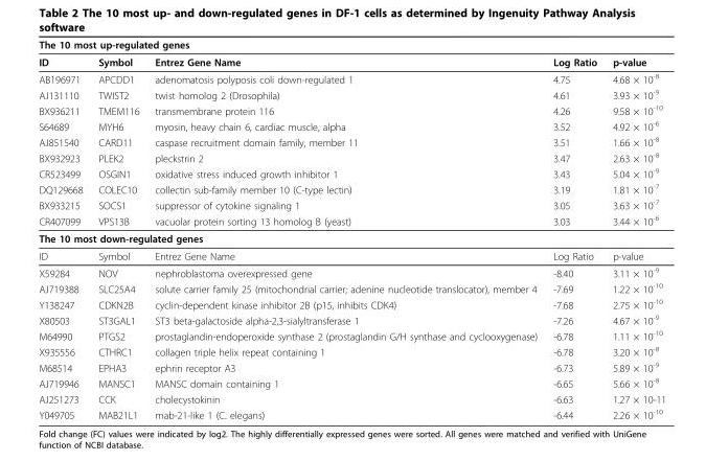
<table><thead><tr><td colspan="5">The 10 most up-regulated genes</td></tr><tr><td>ID</td><td>Symbol</td><td>Entrez Gene Name</td><td>Log Ratio</td><td>p-value</td></tr></thead><tbody><tr><td>AB196971</td><td>APCDD1</td><td>adenomatosis polyposis coli down-regulated 1</td><td>4.75</td><td>4.68 × 10<sup>-8</sup></td></tr><tr><td>AJ131110</td><td>TWIST2</td><td>twist homolog 2 (Drosophila)</td><td>4.61</td><td>3.93 × 10<sup>-9</sup></td></tr><tr><td>BX936211</td><td>TMEM116</td><td>transmembrane protein 116</td><td>4.26</td><td>9.58 × 10<sup>-10</sup></td></tr><tr><td>S64689</td><td>MYH6</td><td>myosin, heavy chain 6, cardiac muscle, alpha</td><td>3.52</td><td>4.92 × 10<sup>-6</sup></td></tr><tr><td>AJ851540</td><td>CARD11</td><td>caspase recruitment domain family, member 11</td><td>3.51</td><td>1.66 × 10<sup>-8</sup></td></tr><tr><td>BX932923</td><td>PLEK2</td><td>pleckstrin 2</td><td>3.47</td><td>2.63 × 10<sup>-8</sup></td></tr><tr><td>CR523499</td><td>OSGIN1</td><td>oxidative stress induced growth inhibitor 1</td><td>3.43</td><td>5.04 × 10<sup>-9</sup></td></tr><tr><td>DQ129668</td><td>COLEC10</td><td>collectin sub-family member 10 (C-type lectin)</td><td>3.19</td><td>1.81 × 10<sup>-7</sup></td></tr><tr><td>BX933215</td><td>SOCS1</td><td>suppressor of cytokine signaling 1</td><td>3.05</td><td>3.63 × 10<sup>-7</sup></td></tr><tr><td>CR407099</td><td>VPS13B</td><td>vacuolar protein sorting 13 homolog B (yeast)</td><td>3.03</td><td>3.44 × 10<sup>-6</sup></td></tr><tr><td colspan="5">The 10 most down-regulated genes</td></tr><tr><td>ID</td><td>Symbol</td><td>Entrez Gene Name</td><td>Log Ratio</td><td>p-value</td></tr><tr><td>X59284</td><td>NOV</td><td>nephroblastoma overexpressed gene</td><td>-8.40</td><td>3.11 × 10<sup>-9</sup></td></tr><tr><td>AJ719388</td><td>SLC25A4</td><td>solute carrier family 25 (mitochondrial carrier; adenine nucleotide translocator), member 4</td><td>-7.69</td><td>1.22 × 10<sup>-10</sup></td></tr><tr><td>Y138247</td><td>CDKN2B</td><td>cyclin-dependent kinase inhibitor 2B (p15, inhibits CDK4)</td><td>-7.68</td><td>2.75 × 10<sup>-10</sup></td></tr><tr><td>X80503</td><td>ST3GAL1</td><td>ST3 beta-galactoside alpha-2,3-sialyltransferase 1</td><td>-7.26</td><td>4.67 × 10<sup>-9</sup></td></tr><tr><td>M64990</td><td>PTGS2</td><td>prostaglandin-endoperoxide synthase 2 (prostaglandin G/H synthase and cyclooxygenase)</td><td>-6.78</td><td>1.11 × 10<sup>-10</sup></td></tr><tr><td>X935556</td><td>CTHRC1</td><td>collagen triple helix repeat containing 1</td><td>-6.78</td><td>3.20 × 10<sup>-8</sup></td></tr><tr><td>M68514</td><td>EPHA3</td><td>ephrin receptor A3</td><td>-6.73</td><td>5.89 × 10<sup>-9</sup></td></tr><tr><td>AJ719946</td><td>MANSC1</td><td>MANSC domain containing 1</td><td>-6.65</td><td>5.66 × 10<sup>-8</sup></td></tr><tr><td>AJ251273</td><td>CCK</td><td>cholecystokinin</td><td>-6.63</td><td>1.27 × 10-11</td></tr><tr><td>Y049705</td><td>MAB21L1</td><td>mab-21-like 1 (C. elegans)</td><td>-6.44</td><td>2.26 × 10<sup>-10</sup></td></tr></tbody></table>